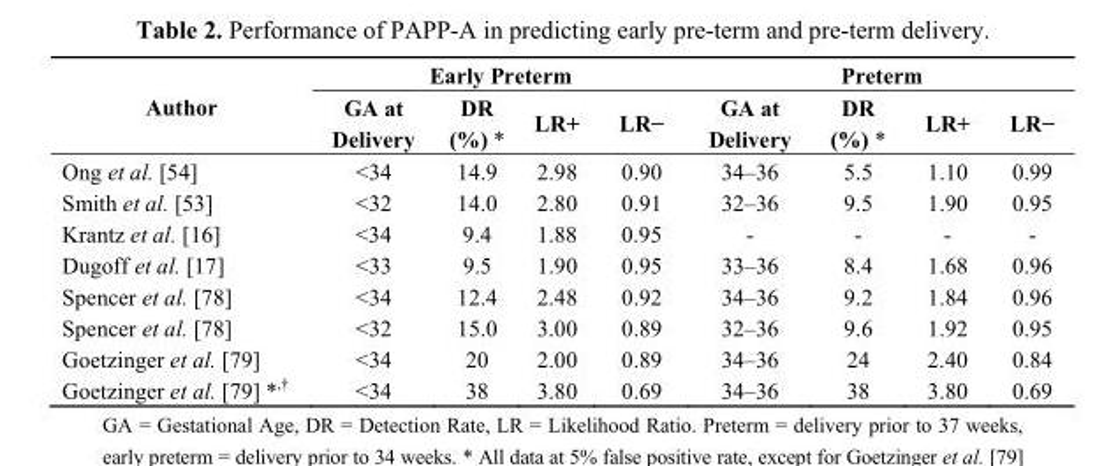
<table><thead><tr><td rowspan="2">Author</td><td colspan="4">Early Preterm</td><td colspan="4">Preterm</td></tr><tr><td>GA at Delivery</td><td>DR (%) *</td><td>LR+</td><td>LR−</td><td>GA at Delivery</td><td>DR (%) *</td><td>LR+</td><td>LR−</td></tr></thead><tbody><tr><td>Ong et al. [54]</td><td>&lt;34</td><td>14.9</td><td>2.98</td><td>0.90</td><td>34–36</td><td>5.5</td><td>1.10</td><td>0.99</td></tr><tr><td>Smith et al. [53]</td><td>&lt;32</td><td>14.0</td><td>2.80</td><td>0.91</td><td>32–36</td><td>9.5</td><td>1.90</td><td>0.95</td></tr><tr><td>Krantz et al. [16]</td><td>&lt;34</td><td>9.4</td><td>1.88</td><td>0.95</td><td>-</td><td>-</td><td>-</td><td>-</td></tr><tr><td>Dugoff et al. [17]</td><td>&lt;33</td><td>9.5</td><td>1.90</td><td>0.95</td><td>33–36</td><td>8.4</td><td>1.68</td><td>0.96</td></tr><tr><td>Spencer et al. [78]</td><td>&lt;34</td><td>12.4</td><td>2.48</td><td>0.92</td><td>34–36</td><td>9.2</td><td>1.84</td><td>0.96</td></tr><tr><td>Spencer et al. [78]</td><td>&lt;32</td><td>15.0</td><td>3.00</td><td>0.89</td><td>32–36</td><td>9.6</td><td>1.92</td><td>0.95</td></tr><tr><td>Goetzinger et al. [79]</td><td>&lt;34</td><td>20</td><td>2.00</td><td>0.89</td><td>34–36</td><td>24</td><td>2.40</td><td>0.84</td></tr><tr><td>Goetzinger et al. [79] *<sup>,†</sup></td><td>&lt;34</td><td>38</td><td>3.80</td><td>0.69</td><td>34–36</td><td>38</td><td>3.80</td><td>0.69</td></tr></tbody></table>